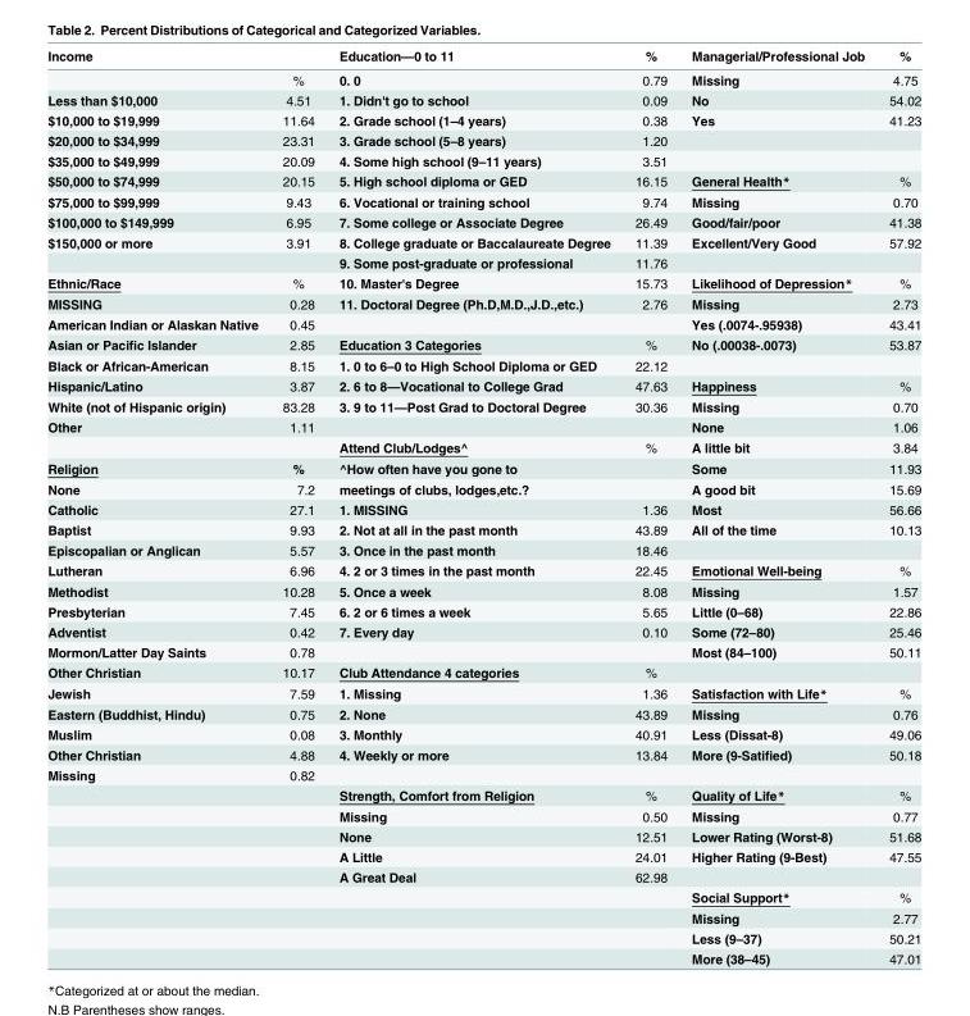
<table><thead><tr><td>Income</td><td></td><td>Education—0 to 11</td><td>%</td><td>Managerial/Professional Job</td><td>%</td></tr></thead><tbody><tr><td></td><td>%</td><td>0. 0</td><td>0.79</td><td>Missing</td><td>4.75</td></tr><tr><td>Less than $10,000</td><td>4.51</td><td>1. Didn&#x27;t go to school</td><td>0.09</td><td>No</td><td>54.02</td></tr><tr><td>$10,000 to $19,999</td><td>11.64</td><td>2. Grade school (1–4 years)</td><td>0.38</td><td>Yes</td><td>41.23</td></tr><tr><td>$20,000 to $34,999</td><td>23.31</td><td>3. Grade school (5–8 years)</td><td>1.20</td><td></td><td></td></tr><tr><td>$35,000 to $49,999</td><td>20.09</td><td>4. Some high school (9–11 years)</td><td>3.51</td><td></td><td></td></tr><tr><td>$50,000 to $74,999</td><td>20.15</td><td>5. High school diploma or GED</td><td>16.15</td><td>General Health*</td><td>%</td></tr><tr><td>$75,000 to $99,999</td><td>9.43</td><td>6. Vocational or training school</td><td>9.74</td><td>Missing</td><td>0.70</td></tr><tr><td>$100,000 to $149,999</td><td>6.95</td><td>7. Some college or Associate Degree</td><td>26.49</td><td>Good/fair/poor</td><td>41.38</td></tr><tr><td rowspan="2">$150,000 or more</td><td>3.91</td><td>8. College graduate or Baccalaureate Degree</td><td>11.39</td><td>Excellent/Very Good</td><td>57.92</td></tr><tr><td></td><td>9. Some post-graduate or professional</td><td>11.76</td><td></td><td></td></tr><tr><td>Ethnic/Race</td><td>%</td><td>10. Master&#x27;s Degree</td><td>15.73</td><td>Likelihood of Depression*</td><td>%</td></tr><tr><td>MISSING</td><td>0.28</td><td>11. Doctoral Degree (Ph.D,M.D.,J.D.,etc.)</td><td>2.76</td><td>Missing</td><td>2.73</td></tr><tr><td>American Indian or Alaskan Native</td><td>0.45</td><td></td><td></td><td>Yes (.0074-.95938)</td><td>43.41</td></tr><tr><td>Asian or Pacific Islander</td><td>2.85</td><td>Education 3 Categories</td><td>%</td><td>No (.00038-.0073)</td><td>53.87</td></tr><tr><td>Black or African-American</td><td>8.15</td><td>1. 0 to 6–0 to High School Diploma or GED</td><td>22.12</td><td></td><td></td></tr><tr><td>Hispanic/Latino</td><td>3.87</td><td>2. 6 to 8—Vocational to College Grad</td><td>47.63</td><td>Happiness</td><td>%</td></tr><tr><td>White (not of Hispanic origin)</td><td>83.28</td><td>3. 9 to 11—Post Grad to Doctoral Degree</td><td>30.36</td><td>Missing</td><td>0.70</td></tr><tr><td rowspan="2">Other</td><td>1.11</td><td></td><td></td><td>None</td><td>1.06</td></tr><tr><td></td><td>Attend Club/Lodges^</td><td>%</td><td>A little bit</td><td>3.84</td></tr><tr><td>Religion</td><td>%</td><td>^How often have you gone to</td><td></td><td>Some</td><td>11.93</td></tr><tr><td>None</td><td>7.2</td><td>meetings of clubs, lodges,etc.?</td><td></td><td>A good bit</td><td>15.69</td></tr><tr><td>Catholic</td><td>27.1</td><td>1. MISSING</td><td>1.36</td><td>Most</td><td>56.66</td></tr><tr><td>Baptist</td><td>9.93</td><td>2. Not at all in the past month</td><td>43.89</td><td>All of the time</td><td>10.13</td></tr><tr><td>Episcopalian or Anglican</td><td>5.57</td><td>3. Once in the past month</td><td>18.46</td><td></td><td></td></tr><tr><td>Lutheran</td><td>6.96</td><td>4. 2 or 3 times in the past month</td><td>22.45</td><td>Emotional Well-being</td><td>%</td></tr><tr><td>Methodist</td><td>10.28</td><td>5. Once a week</td><td>8.08</td><td>Missing</td><td>1.57</td></tr><tr><td>Presbyterian</td><td>7.45</td><td>6. 2 or 6 times a week</td><td>5.65</td><td>Little (0–68)</td><td>22.86</td></tr><tr><td>Adventist</td><td>0.42</td><td>7. Every day</td><td>0.10</td><td>Some (72–80)</td><td>25.46</td></tr><tr><td>Mormon/Latter Day Saints</td><td>0.78</td><td></td><td></td><td>Most (84–100)</td><td>50.11</td></tr><tr><td>Other Christian</td><td>10.17</td><td>Club Attendance 4 categories</td><td>%</td><td></td><td></td></tr><tr><td>Jewish</td><td>7.59</td><td>1. Missing</td><td>1.36</td><td>Satisfaction with Life*</td><td>%</td></tr><tr><td>Eastern (Buddhist, Hindu)</td><td>0.75</td><td>2. None</td><td>43.89</td><td>Missing</td><td>0.76</td></tr><tr><td>Muslim</td><td>0.08</td><td>3. Monthly</td><td>40.91</td><td>Less (Dissat-8)</td><td>49.06</td></tr><tr><td>Other Christian</td><td>4.88</td><td>4. Weekly or more</td><td>13.84</td><td>More (9-Satified)</td><td>50.18</td></tr><tr><td rowspan="10">Missing</td><td>0.82</td><td></td><td></td><td></td><td></td></tr><tr><td></td><td>Strength, Comfort from Religion</td><td>%</td><td>Quality of Life*</td><td>%</td></tr><tr><td></td><td>Missing</td><td>0.50</td><td>Missing</td><td>0.77</td></tr><tr><td></td><td>None</td><td>12.51</td><td>Lower Rating (Worst-8)</td><td>51.68</td></tr><tr><td></td><td>A Little</td><td>24.01</td><td>Higher Rating (9-Best)</td><td>47.55</td></tr><tr><td></td><td>A Great Deal</td><td>62.98</td><td></td><td></td></tr><tr><td></td><td></td><td></td><td>Social Support*</td><td>%</td></tr><tr><td></td><td></td><td></td><td>Missing</td><td>2.77</td></tr><tr><td></td><td></td><td></td><td>Less (9–37)</td><td>50.21</td></tr><tr><td></td><td></td><td></td><td>More (38–45)</td><td>47.01</td></tr></tbody></table>